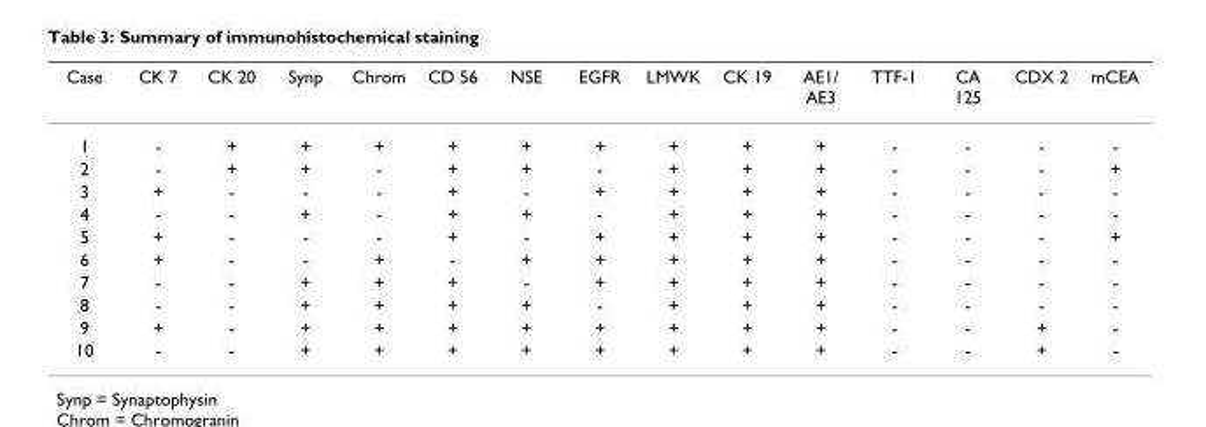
<table><thead><tr><td>Case</td><td>CK 7</td><td>CK 20</td><td>Synp</td><td>Chrom</td><td>CD 56</td><td>NSE</td><td>EGFR</td><td>LMWK</td><td>CK 19</td><td>AE1/ AE3</td><td>TTF-1</td><td>CA 125</td><td>CDX 2</td><td>mCEA</td></tr></thead><tbody><tr><td>1</td><td>-</td><td>+</td><td>+</td><td>+</td><td>+</td><td>+</td><td>+</td><td>+</td><td>+</td><td>+</td><td>-</td><td>-</td><td>-</td><td>-</td></tr><tr><td>2</td><td>-</td><td>+</td><td>+</td><td>-</td><td>+</td><td>+</td><td>-</td><td>+</td><td>+</td><td>+</td><td>-</td><td>-</td><td>-</td><td>+</td></tr><tr><td>3</td><td>+</td><td>-</td><td>-</td><td>-</td><td>+</td><td>-</td><td>+</td><td>+</td><td>+</td><td>+</td><td>-</td><td>-</td><td>-</td><td>-</td></tr><tr><td>4</td><td>-</td><td>-</td><td>+</td><td>-</td><td>+</td><td>+</td><td>-</td><td>+</td><td>+</td><td>+</td><td>-</td><td>-</td><td>-</td><td>-</td></tr><tr><td>5</td><td>+</td><td>-</td><td>-</td><td>-</td><td>+</td><td>-</td><td>+</td><td>+</td><td>+</td><td>+</td><td>-</td><td>-</td><td>-</td><td>+</td></tr><tr><td>6</td><td>+</td><td>-</td><td>-</td><td>+</td><td>-</td><td>+</td><td>+</td><td>+</td><td>+</td><td>+</td><td>-</td><td>-</td><td>-</td><td>-</td></tr><tr><td>7</td><td>-</td><td>-</td><td>+</td><td>+</td><td>+</td><td>-</td><td>+</td><td>+</td><td>+</td><td>+</td><td>-</td><td>-</td><td>-</td><td>-</td></tr><tr><td>8</td><td>-</td><td>-</td><td>+</td><td>+</td><td>+</td><td>+</td><td>-</td><td>+</td><td>+</td><td>+</td><td>-</td><td>-</td><td>-</td><td>-</td></tr><tr><td>9</td><td>+</td><td>-</td><td>+</td><td>+</td><td>+</td><td>+</td><td>+</td><td>+</td><td>+</td><td>+</td><td>-</td><td>-</td><td>+</td><td>-</td></tr><tr><td>10</td><td>-</td><td>-</td><td>+</td><td>+</td><td>+</td><td>+</td><td>+</td><td>+</td><td>+</td><td>+</td><td>-</td><td>-</td><td>+</td><td>-</td></tr></tbody></table>